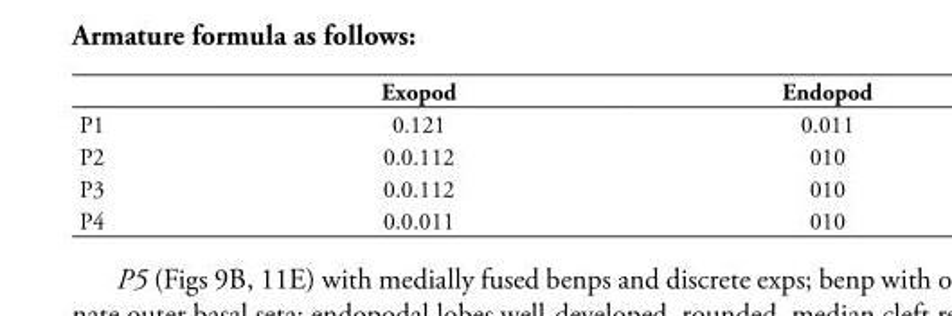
<table><thead><tr><td></td><td>Exopod</td><td>Endopod</td></tr></thead><tbody><tr><td>P1</td><td>0.121</td><td>0.011</td></tr><tr><td>P2</td><td>0.0.112</td><td>010</td></tr><tr><td>P3</td><td>0.0.112</td><td>010</td></tr><tr><td>P4</td><td>0.0.011</td><td>010</td></tr></tbody></table>